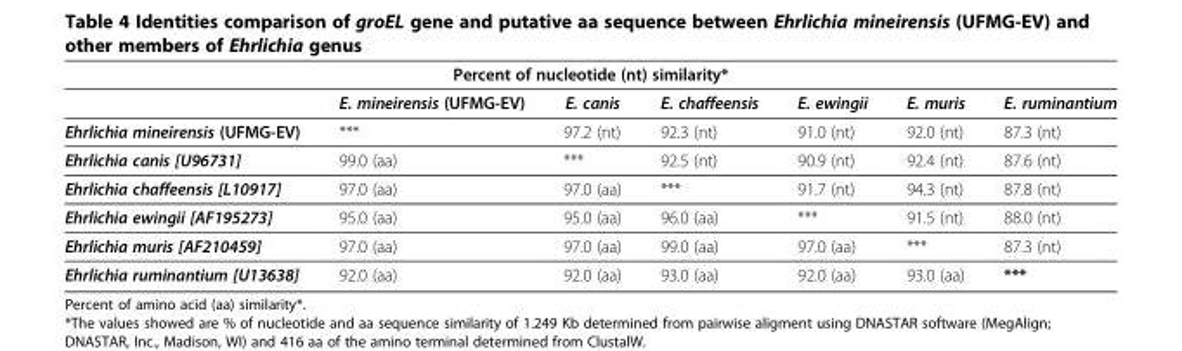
<table><thead><tr><td colspan="7">Percent of nucleotide (nt) similarity*</td></tr><tr><td></td><td>E. mineirensis (UFMG-EV)</td><td>E. canis</td><td>E. chaffeensis</td><td>E. ewingii</td><td>E. muris</td><td>E. ruminantium</td></tr></thead><tbody><tr><td>Ehrlichia mineirensis (UFMG-EV)</td><td>***</td><td>97.2 (nt)</td><td>92.3 (nt)</td><td>91.0 (nt)</td><td>92.0 (nt)</td><td>87.3 (nt)</td></tr><tr><td>Ehrlichia canis [U96731]</td><td>99.0 (aa)</td><td>***</td><td>92.5 (nt)</td><td>90.9 (nt)</td><td>92.4 (nt)</td><td>87.6 (nt)</td></tr><tr><td>Ehrlichia chaffeensis [L10917]</td><td>97.0 (aa)</td><td>97.0 (aa)</td><td>***</td><td>91.7 (nt)</td><td>94.3 (nt)</td><td>87.8 (nt)</td></tr><tr><td>Ehrlichia ewingii [AF195273]</td><td>95.0 (aa)</td><td>95.0 (aa)</td><td>96.0 (aa)</td><td>***</td><td>91.5 (nt)</td><td>88.0 (nt)</td></tr><tr><td>Ehrlichia muris [AF210459]</td><td>97.0 (aa)</td><td>97.0 (aa)</td><td>99.0 (aa)</td><td>97.0 (aa)</td><td>***</td><td>87.3 (nt)</td></tr><tr><td>Ehrlichia ruminantium [U13638]</td><td>92.0 (aa)</td><td>92.0 (aa)</td><td>93.0 (aa)</td><td>92.0 (aa)</td><td>93.0 (aa)</td><td>***</td></tr></tbody></table>